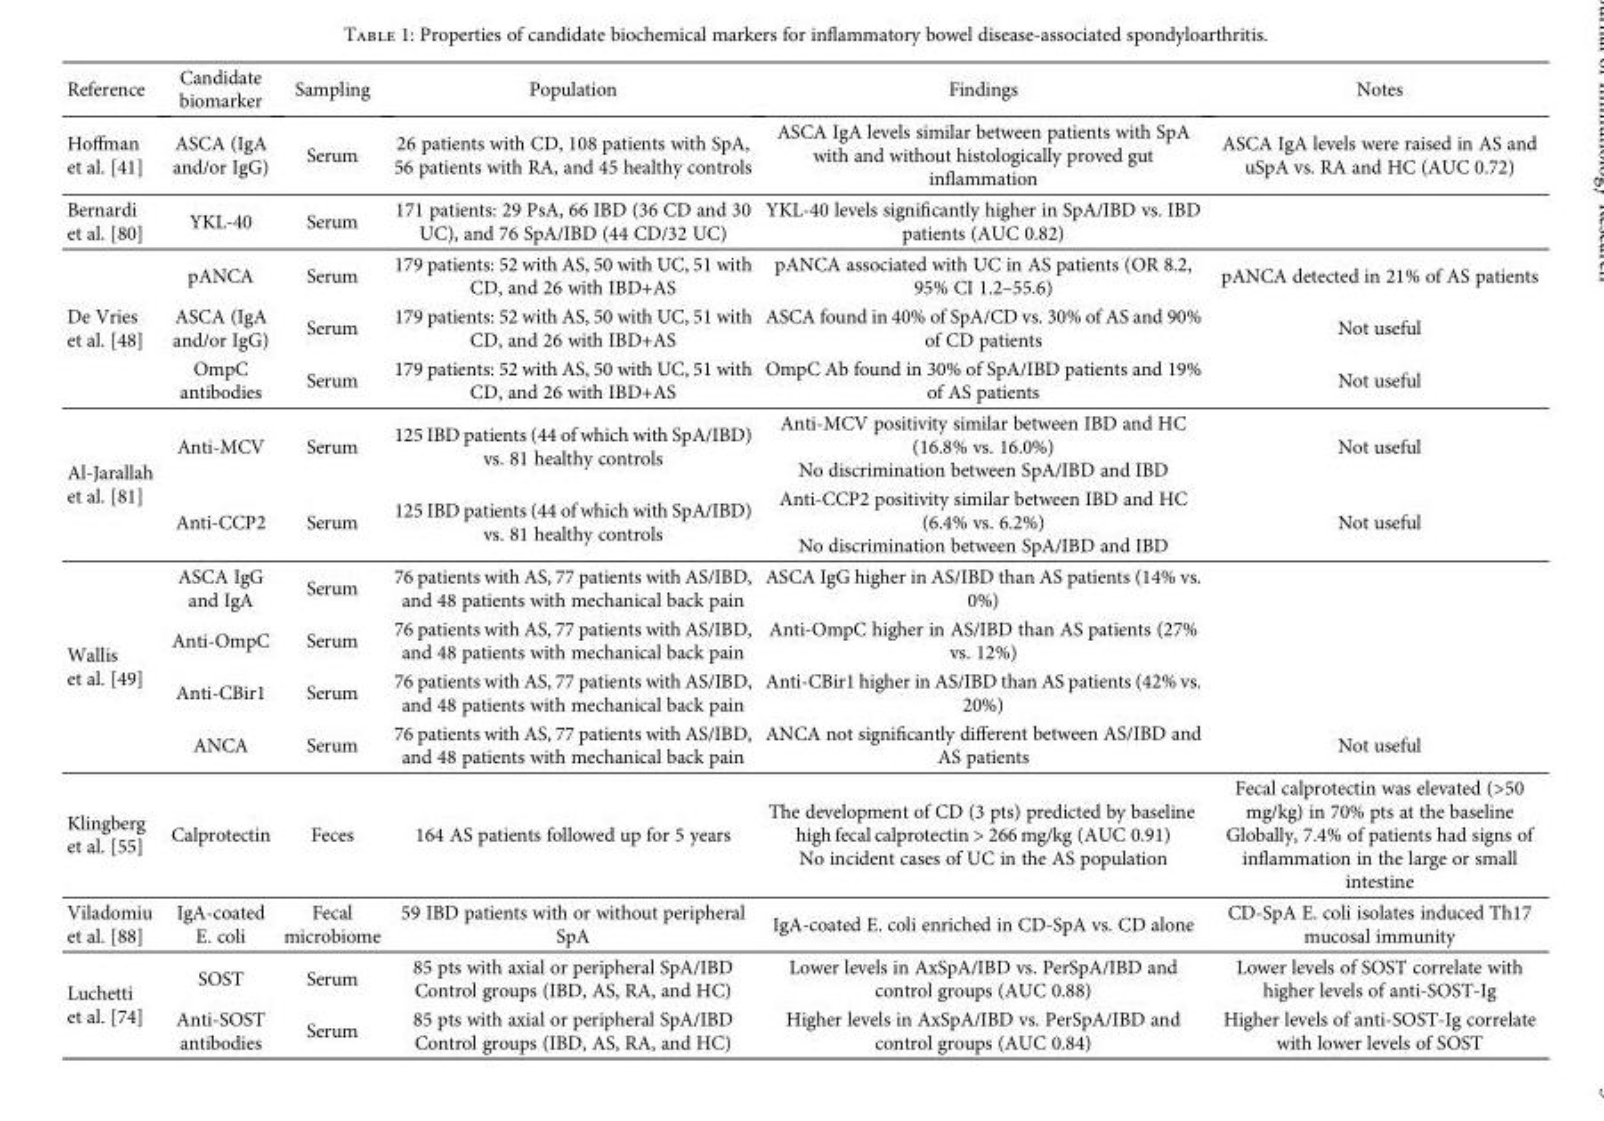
<table><thead><tr><td>Reference</td><td>Candidate biomarker</td><td>Sampling</td><td>Population</td><td>Findings</td><td>Notes</td></tr></thead><tbody><tr><td>Hoffman et al. [41]</td><td>ASCA (IgA and/or IgG)</td><td>Serum</td><td>26 patients with CD, 108 patients with SpA, 56 patients with RA, and 45 healthy controls</td><td>ASCA IgA levels similar between patients with SpA with and without histologically proved gut inflammation</td><td>ASCA IgA levels were raised in AS and uSpA vs. RA and HC (AUC 0.72)</td></tr><tr><td>Bernardi et al. [80]</td><td>YKL-40</td><td>Serum</td><td>171 patients: 29 PsA, 66 IBD (36 CD and 30 UC), and 76 SpA/IBD (44 CD/32 UC)</td><td>YKL-40 levels significantly higher in SpA/IBD vs. IBD patients (AUC 0.82)</td><td></td></tr><tr><td rowspan="3">De Vries et al. [48]</td><td>pANCA</td><td>Serum</td><td>179 patients: 52 with AS, 50 with UC, 51 with CD, and 26 with IBD+AS</td><td>pANCA associated with UC in AS patients (OR 8.2, 95% CI 1.2–55.6)</td><td>pANCA detected in 21% of AS patients</td></tr><tr><td>ASCA (IgA and/or IgG)</td><td>Serum</td><td>179 patients: 52 with AS, 50 with UC, 51 with CD, and 26 with IBD+AS</td><td>ASCA found in 40% of SpA/CD vs. 30% of AS and 90% of CD patients</td><td>Not useful</td></tr><tr><td>OmpC antibodies</td><td>Serum</td><td>179 patients: 52 with AS, 50 with UC, 51 with CD, and 26 with IBD+AS</td><td>OmpC Ab found in 30% of SpA/IBD patients and 19% of AS patients</td><td>Not useful</td></tr><tr><td rowspan="2">Al-Jarallah et al. [81]</td><td>Anti-MCV</td><td>Serum</td><td>125 IBD patients (44 of which with SpA/IBD) vs. 81 healthy controls</td><td>Anti-MCV positivity similar between IBD and HC (16.8% vs. 16.0%) No discrimination between SpA/IBD and IBD</td><td>Not useful</td></tr><tr><td>Anti-CCP2</td><td>Serum</td><td>125 IBD patients (44 of which with SpA/IBD) vs. 81 healthy controls</td><td>Anti-CCP2 positivity similar between IBD and HC (6.4% vs. 6.2%) No discrimination between SpA/IBD and IBD</td><td>Not useful</td></tr><tr><td rowspan="4">Wallis et al. [49]</td><td>ASCA IgG and IgA</td><td>Serum</td><td>76 patients with AS, 77 patients with AS/IBD, and 48 patients with mechanical back pain</td><td>ASCA IgG higher in AS/IBD than AS patients (14% vs. 0%)</td><td></td></tr><tr><td>Anti-OmpC</td><td>Serum</td><td>76 patients with AS, 77 patients with AS/IBD, and 48 patients with mechanical back pain</td><td>Anti-OmpC higher in AS/IBD than AS patients (27% vs. 12%)</td><td></td></tr><tr><td>Anti-CBir1</td><td>Serum</td><td>76 patients with AS, 77 patients with AS/IBD, and 48 patients with mechanical back pain</td><td>Anti-CBir1 higher in AS/IBD than AS patients (42% vs. 20%)</td><td></td></tr><tr><td>ANCA</td><td>Serum</td><td>76 patients with AS, 77 patients with AS/IBD, and 48 patients with mechanical back pain</td><td>ANCA not significantly different between AS/IBD and AS patients</td><td>Not useful</td></tr><tr><td>Klingberg et al. [55]</td><td>Calprotectin</td><td>Feces</td><td>164 AS patients followed up for 5 years</td><td>The development of CD (3 pts) predicted by baseline high fecal calprotectin &gt; 266 mg/kg (AUC 0.91) No incident cases of UC in the AS population</td><td>Fecal calprotectin was elevated (&gt;50 mg/kg) in 70% pts at the baseline Globally, 7.4% of patients had signs of inflammation in the large or small intestine</td></tr><tr><td>Viladomiu et al. [88]</td><td>IgA-coated E. coli</td><td>Fecal microbiome</td><td>59 IBD patients with or without peripheral SpA</td><td>IgA-coated E. coli enriched in CD-SpA vs. CD alone</td><td>CD-SpA E. coli isolates induced Th17 mucosal immunity</td></tr><tr><td rowspan="2">Luchetti et al. [74]</td><td>SOST</td><td>Serum</td><td>85 pts with axial or peripheral SpA/IBD Control groups (IBD, AS, RA, and HC)</td><td>Lower levels in AxSpA/IBD vs. PerSpA/IBD and control groups (AUC 0.88)</td><td>Lower levels of SOST correlate with higher levels of anti-SOST-Ig</td></tr><tr><td>Anti-SOST antibodies</td><td>Serum</td><td>85 pts with axial or peripheral SpA/IBD Control groups (IBD, AS, RA, and HC)</td><td>Higher levels in AxSpA/IBD vs. PerSpA/IBD and control groups (AUC 0.84)</td><td>Higher levels of anti-SOST-Ig correlate with lower levels of SOST</td></tr></tbody></table>